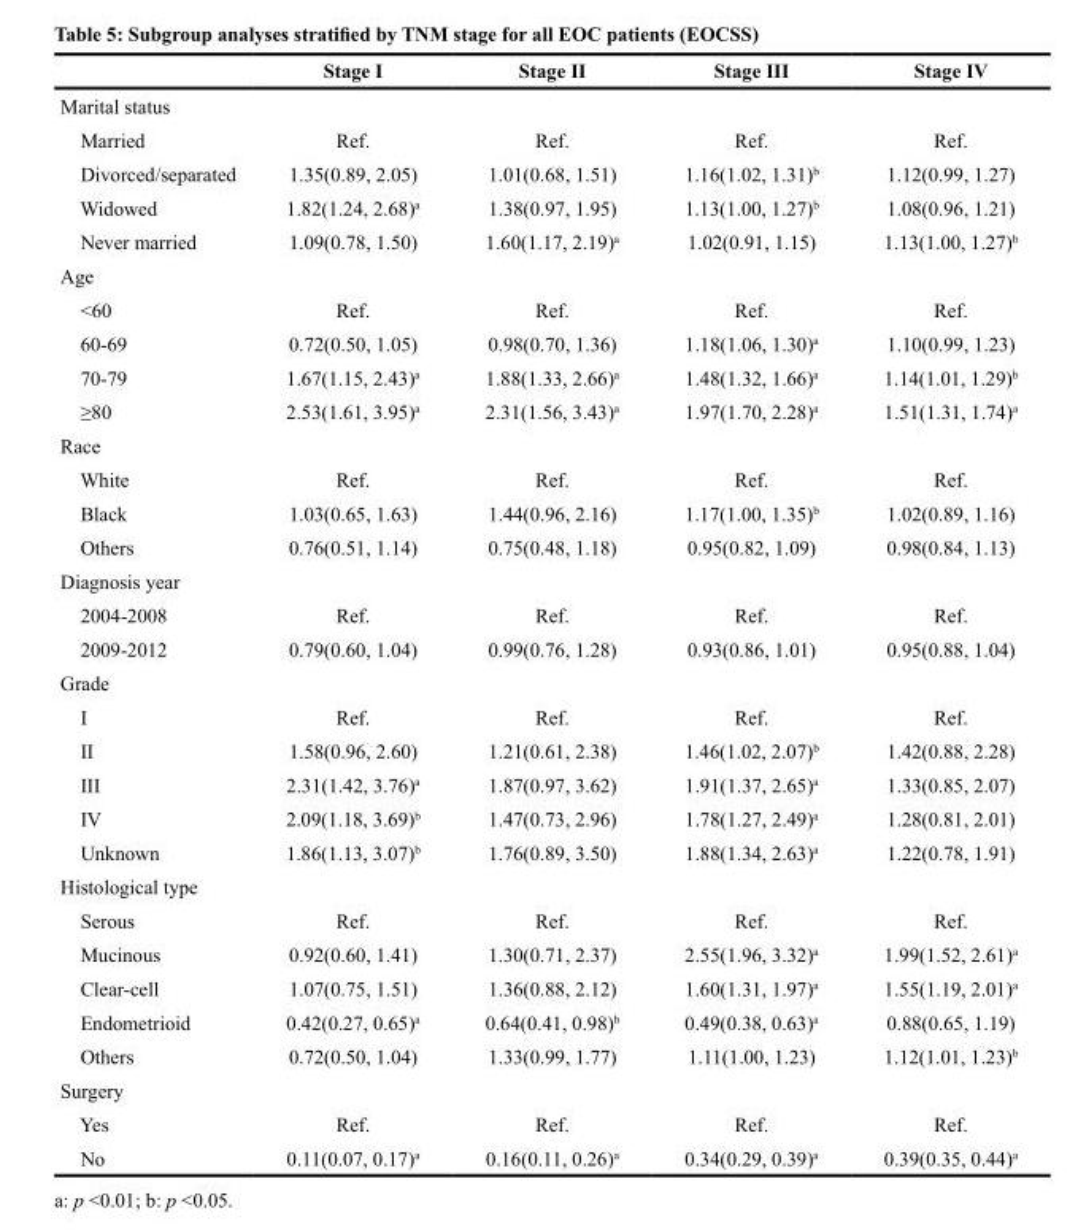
<table><thead><tr><td></td><td>Stage I</td><td>Stage II</td><td>Stage III</td><td>Stage IV</td></tr></thead><tbody><tr><td colspan="5">Marital status</td></tr><tr><td>Married</td><td>Ref.</td><td>Ref.</td><td>Ref.</td><td>Ref.</td></tr><tr><td>Divorced/separated</td><td>1.35(0.89, 2.05)</td><td>1.01(0.68, 1.51)</td><td>1.16(1.02, 1.31)<sup>b</sup></td><td>1.12(0.99, 1.27)</td></tr><tr><td>Widowed</td><td>1.82(1.24, 2.68)<sup>a</sup></td><td>1.38(0.97, 1.95)</td><td>1.13(1.00, 1.27)<sup>b</sup></td><td>1.08(0.96, 1.21)</td></tr><tr><td>Never married</td><td>1.09(0.78, 1.50)</td><td>1.60(1.17, 2.19)<sup>a</sup></td><td>1.02(0.91, 1.15)</td><td>1.13(1.00, 1.27)<sup>b</sup></td></tr><tr><td colspan="5">Age</td></tr><tr><td>&lt;60</td><td>Ref.</td><td>Ref.</td><td>Ref.</td><td>Ref.</td></tr><tr><td>60-69</td><td>0.72(0.50, 1.05)</td><td>0.98(0.70, 1.36)</td><td>1.18(1.06, 1.30)<sup>a</sup></td><td>1.10(0.99, 1.23)</td></tr><tr><td>70-79</td><td>1.67(1.15, 2.43)<sup>a</sup></td><td>1.88(1.33, 2.66)<sup>a</sup></td><td>1.48(1.32, 1.66)<sup>a</sup></td><td>1.14(1.01, 1.29)<sup>b</sup></td></tr><tr><td>≥80</td><td>2.53(1.61, 3.95)<sup>a</sup></td><td>2.31(1.56, 3.43)<sup>a</sup></td><td>1.97(1.70, 2.28)<sup>a</sup></td><td>1.51(1.31, 1.74)<sup>a</sup></td></tr><tr><td colspan="5">Race</td></tr><tr><td>White</td><td>Ref.</td><td>Ref.</td><td>Ref.</td><td>Ref.</td></tr><tr><td>Black</td><td>1.03(0.65, 1.63)</td><td>1.44(0.96, 2.16)</td><td>1.17(1.00, 1.35)<sup>b</sup></td><td>1.02(0.89, 1.16)</td></tr><tr><td>Others</td><td>0.76(0.51, 1.14)</td><td>0.75(0.48, 1.18)</td><td>0.95(0.82, 1.09)</td><td>0.98(0.84, 1.13)</td></tr><tr><td colspan="5">Diagnosis year</td></tr><tr><td>2004-2008</td><td>Ref.</td><td>Ref.</td><td>Ref.</td><td>Ref.</td></tr><tr><td>2009-2012</td><td>0.79(0.60, 1.04)</td><td>0.99(0.76, 1.28)</td><td>0.93(0.86, 1.01)</td><td>0.95(0.88, 1.04)</td></tr><tr><td colspan="5">Grade</td></tr><tr><td>I</td><td>Ref.</td><td>Ref.</td><td>Ref.</td><td>Ref.</td></tr><tr><td>II</td><td>1.58(0.96, 2.60)</td><td>1.21(0.61, 2.38)</td><td>1.46(1.02, 2.07)<sup>b</sup></td><td>1.42(0.88, 2.28)</td></tr><tr><td>III</td><td>2.31(1.42, 3.76)<sup>a</sup></td><td>1.87(0.97, 3.62)</td><td>1.91(1.37, 2.65)<sup>a</sup></td><td>1.33(0.85, 2.07)</td></tr><tr><td>IV</td><td>2.09(1.18, 3.69)<sup>b</sup></td><td>1.47(0.73, 2.96)</td><td>1.78(1.27, 2.49)<sup>a</sup></td><td>1.28(0.81, 2.01)</td></tr><tr><td>Unknown</td><td>1.86(1.13, 3.07)<sup>b</sup></td><td>1.76(0.89, 3.50)</td><td>1.88(1.34, 2.63)<sup>a</sup></td><td>1.22(0.78, 1.91)</td></tr><tr><td colspan="5">Histological type</td></tr><tr><td>Serous</td><td>Ref.</td><td>Ref.</td><td>Ref.</td><td>Ref.</td></tr><tr><td>Mucinous</td><td>0.92(0.60, 1.41)</td><td>1.30(0.71, 2.37)</td><td>2.55(1.96, 3.32)<sup>a</sup></td><td>1.99(1.52, 2.61)<sup>a</sup></td></tr><tr><td>Clear-cell</td><td>1.07(0.75, 1.51)</td><td>1.36(0.88, 2.12)</td><td>1.60(1.31, 1.97)<sup>a</sup></td><td>1.55(1.19, 2.01)<sup>a</sup></td></tr><tr><td>Endometrioid</td><td>0.42(0.27, 0.65)<sup>a</sup></td><td>0.64(0.41, 0.98)<sup>b</sup></td><td>0.49(0.38, 0.63)<sup>a</sup></td><td>0.88(0.65, 1.19)</td></tr><tr><td>Others</td><td>0.72(0.50, 1.04)</td><td>1.33(0.99, 1.77)</td><td>1.11(1.00, 1.23)</td><td>1.12(1.01, 1.23)<sup>b</sup></td></tr><tr><td colspan="5">Surgery</td></tr><tr><td>Yes</td><td>Ref.</td><td>Ref.</td><td>Ref.</td><td>Ref.</td></tr><tr><td>No</td><td>0.11(0.07, 0.17)<sup>a</sup></td><td>0.16(0.11, 0.26)<sup>a</sup></td><td>0.34(0.29, 0.39)<sup>a</sup></td><td>0.39(0.35, 0.44)<sup>a</sup></td></tr></tbody></table>